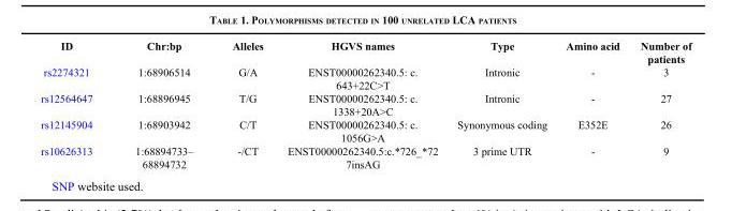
<table><thead><tr><td>ID</td><td>Chr:bp</td><td>Alleles</td><td>HGVS names</td><td>Type</td><td>Amino acid</td><td>Number of patients</td></tr></thead><tbody><tr><td>rs2274321</td><td>1:68906514</td><td>G/A</td><td>ENST00000262340.5: c. 643+22C&gt;T</td><td>Intronic</td><td>-</td><td>3</td></tr><tr><td>rs12564647</td><td>1:68896945</td><td>T/G</td><td>ENST00000262340.5: c. 1338+20A&gt;C</td><td>Intronic</td><td>-</td><td>27</td></tr><tr><td>rs12145904</td><td>1:68903942</td><td>C/T</td><td>ENST00000262340.5: c. 1056G&gt;A</td><td>Synonymous coding</td><td>E352E</td><td>26</td></tr><tr><td>rs10626313</td><td>1:68894733– 68894732</td><td>-/CT</td><td>ENST00000262340.5:c.*726_*72 7insAG</td><td>3 prime UTR</td><td>-</td><td>9</td></tr></tbody></table>